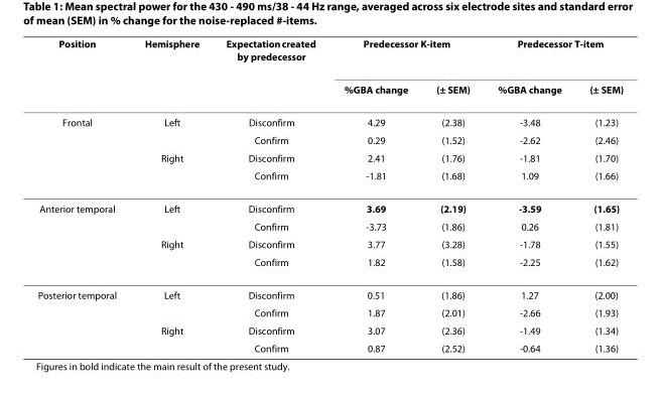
<table><thead><tr><td rowspan="2">Position</td><td rowspan="2">Hemisphere</td><td rowspan="2">Expectation created by predecessor</td><td colspan="2">Predecessor K-item</td><td colspan="2">Predecessor T-item</td></tr><tr><td>%GBA change</td><td>(± SEM)</td><td>%GBA change</td><td>(± SEM)</td></tr></thead><tbody><tr><td rowspan="4">Frontal</td><td>Left</td><td>Disconfirm</td><td>4.29</td><td>(2.38)</td><td>-3.48</td><td>(1.23)</td></tr><tr><td></td><td>Confirm</td><td>0.29</td><td>(1.52)</td><td>-2.62</td><td>(2.46)</td></tr><tr><td>Right</td><td>Disconfirm</td><td>2.41</td><td>(1.76)</td><td>-1.81</td><td>(1.70)</td></tr><tr><td></td><td>Confirm</td><td>-1.81</td><td>(1.68)</td><td>1.09</td><td>(1.66)</td></tr><tr><td rowspan="4">Anterior temporal</td><td>Left</td><td>Disconfirm</td><td>3.69</td><td>(2.19)</td><td>-3.59</td><td>(1.65)</td></tr><tr><td></td><td>Confirm</td><td>-3.73</td><td>(1.86)</td><td>0.26</td><td>(1.81)</td></tr><tr><td>Right</td><td>Disconfirm</td><td>3.77</td><td>(3.28)</td><td>-1.78</td><td>(1.55)</td></tr><tr><td></td><td>Confirm</td><td>1.82</td><td>(1.58)</td><td>-2.25</td><td>(1.62)</td></tr><tr><td rowspan="4">Posterior temporal</td><td>Left</td><td>Disconfirm</td><td>0.51</td><td>(1.86)</td><td>1.27</td><td>(2.00)</td></tr><tr><td></td><td>Confirm</td><td>1.87</td><td>(2.01)</td><td>-2.66</td><td>(1.93)</td></tr><tr><td>Right</td><td>Disconfirm</td><td>3.07</td><td>(2.36)</td><td>-1.49</td><td>(1.34)</td></tr><tr><td></td><td>Confirm</td><td>0.87</td><td>(2.52)</td><td>-0.64</td><td>(1.36)</td></tr></tbody></table>